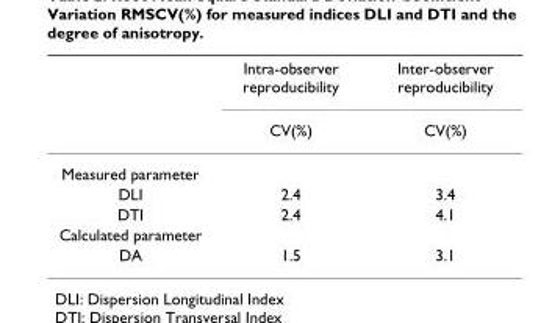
<table><thead><tr><td rowspan="2"></td><td rowspan="2">Intra-observer reproducibility CV(%)</td><td rowspan="2">Inter-observer reproducibility CV(%)</td></tr><tr></tr></thead><tbody><tr><td colspan="3">Measured parameter</td></tr><tr><td>DLI</td><td>2.4</td><td>3.4</td></tr><tr><td>DTI</td><td>2.4</td><td>4.1</td></tr><tr><td colspan="3">Calculated parameter</td></tr><tr><td>DA</td><td>1.5</td><td>3.1</td></tr></tbody></table>